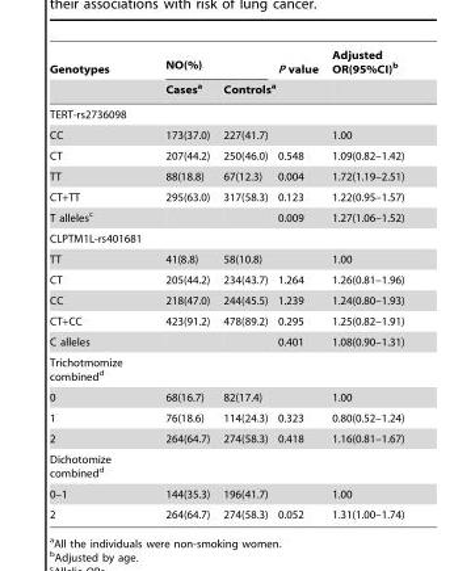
<table><thead><tr><td rowspan="2">Genotypes</td><td colspan="2">NO(%)</td><td rowspan="2">P value</td><td rowspan="2">Adjusted OR(95%CI)<sup>b</sup></td></tr><tr><td>Cases<sup>a</sup></td><td>Controls<sup>a</sup></td></tr></thead><tbody><tr><td colspan="5">TERT-rs2736098</td></tr><tr><td>CC</td><td>173(37.0)</td><td>227(41.7)</td><td></td><td>1.00</td></tr><tr><td>CT</td><td>207(44.2)</td><td>250(46.0)</td><td>0.548</td><td>1.09(0.82–1.42)</td></tr><tr><td>TT</td><td>88(18.8)</td><td>67(12.3)</td><td>0.004</td><td>1.72(1.19–2.51)</td></tr><tr><td>CT+TT</td><td>295(63.0)</td><td>317(58.3)</td><td>0.123</td><td>1.22(0.95–1.57)</td></tr><tr><td>T alleles<sup>c</sup></td><td></td><td></td><td>0.009</td><td>1.27(1.06–1.52)</td></tr><tr><td colspan="5">CLPTM1L-rs401681</td></tr><tr><td>TT</td><td>41(8.8)</td><td>58(10.8)</td><td></td><td>1.00</td></tr><tr><td>CT</td><td>205(44.2)</td><td>234(43.7)</td><td>1.264</td><td>1.26(0.81–1.96)</td></tr><tr><td>CC</td><td>218(47.0)</td><td>244(45.5)</td><td>1.239</td><td>1.24(0.80–1.93)</td></tr><tr><td>CT+CC</td><td>423(91.2)</td><td>478(89.2)</td><td>0.295</td><td>1.25(0.82–1.91)</td></tr><tr><td>C alleles</td><td></td><td></td><td>0.401</td><td>1.08(0.90–1.31)</td></tr><tr><td colspan="5">Trichotmomize combined<sup>d</sup></td></tr><tr><td>0</td><td>68(16.7)</td><td>82(17.4)</td><td></td><td>1.00</td></tr><tr><td>1</td><td>76(18.6)</td><td>114(24.3)</td><td>0.323</td><td>0.80(0.52–1.24)</td></tr><tr><td>2</td><td>264(64.7)</td><td>274(58.3)</td><td>0.418</td><td>1.16(0.81–1.67)</td></tr><tr><td colspan="5">Dichotomize combined<sup>d</sup></td></tr><tr><td>0–1</td><td>144(35.3)</td><td>196(41.7)</td><td></td><td>1.00</td></tr><tr><td>2</td><td>264(64.7)</td><td>274(58.3)</td><td>0.052</td><td>1.31(1.00–1.74)</td></tr></tbody></table>